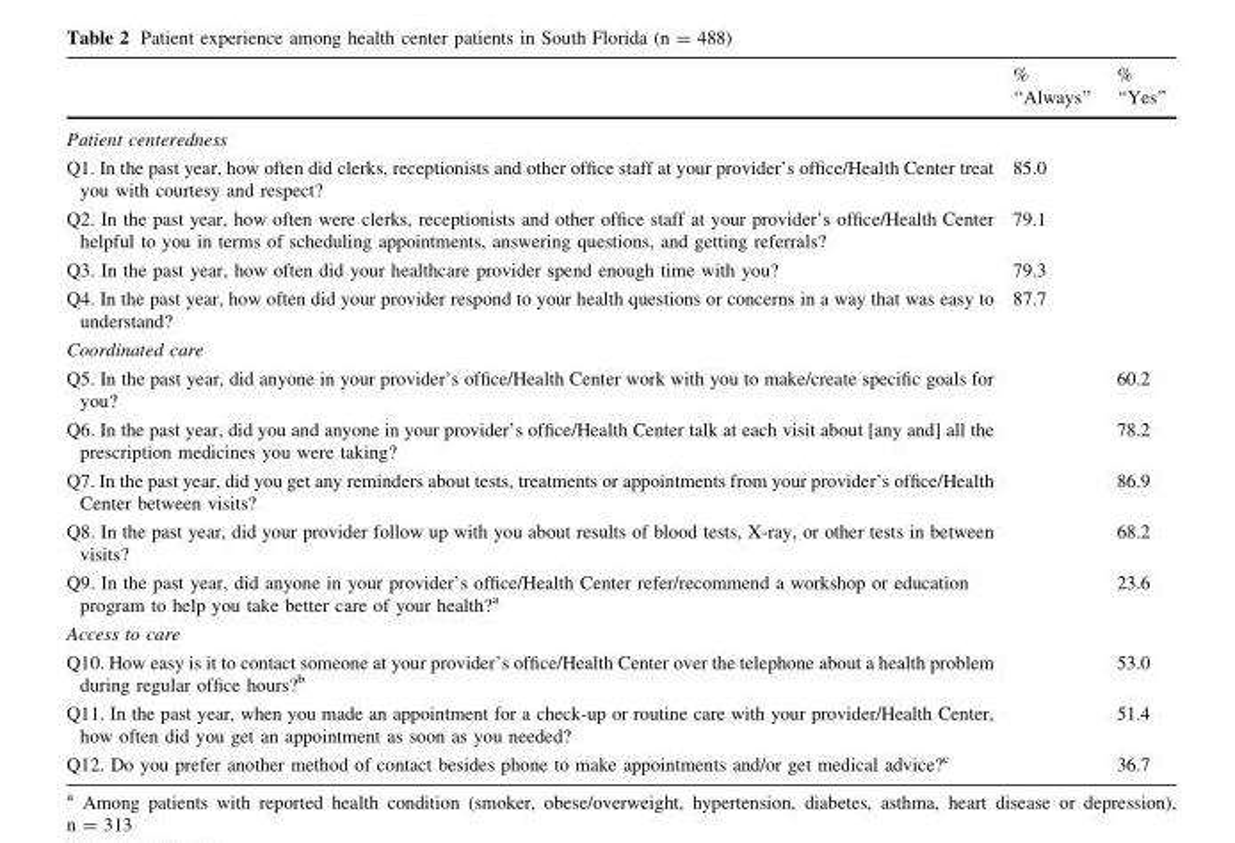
<table><thead><tr><td></td><td>% ‘‘Always’’</td><td>% ‘‘Yes’’</td></tr></thead><tbody><tr><td colspan="3">Patient centeredness</td></tr><tr><td>Q1. In the past year, how often did clerks, receptionists and other office staff at your provider’s office/Health Center treat you with courtesy and respect?</td><td>85.0</td><td></td></tr><tr><td>Q2. In the past year, how often were clerks, receptionists and other office staff at your provider’s office/Health Center helpful to you in terms of scheduling appointments, answering questions, and getting referrals?</td><td>79.1</td><td></td></tr><tr><td>Q3. In the past year, how often did your healthcare provider spend enough time with you?</td><td>79.3</td><td></td></tr><tr><td>Q4. In the past year, how often did your provider respond to your health questions or concerns in a way that was easy to understand?</td><td>87.7</td><td></td></tr><tr><td colspan="3">Coordinated care</td></tr><tr><td>Q5. In the past year, did anyone in your provider’s office/Health Center work with you to make/create specific goals for you?</td><td></td><td>60.2</td></tr><tr><td>Q6. In the past year, did you and anyone in your provider’s office/Health Center talk at each visit about [any and] all the prescription medicines you were taking?</td><td></td><td>78.2</td></tr><tr><td>Q7. In the past year, did you get any reminders about tests, treatments or appointments from your provider’s office/Health Center between visits?</td><td></td><td>86.9</td></tr><tr><td>Q8. In the past year, did your provider follow up with you about results of blood tests, X-ray, or other tests in between visits?</td><td></td><td>68.2</td></tr><tr><td>Q9. In the past year, did anyone in your provider’s office/Health Center refer/recommend a workshop or education program to help you take better care of your health?<sup>a</sup></td><td></td><td>23.6</td></tr><tr><td colspan="3">Access to care</td></tr><tr><td>Q10. How easy is it to contact someone at your provider’s office/Health Center over the telephone about a health problem during regular office hours?<sup>b</sup></td><td></td><td>53.0</td></tr><tr><td>Q11. In the past year, when you made an appointment for a check-up or routine care with your provider/Health Center, how often did you get an appointment as soon as you needed?</td><td></td><td>51.4</td></tr><tr><td>Q12. Do you prefer another method of contact besides phone to make appointments and/or get medical advice?<sup>c</sup></td><td></td><td>36.7</td></tr></tbody></table>